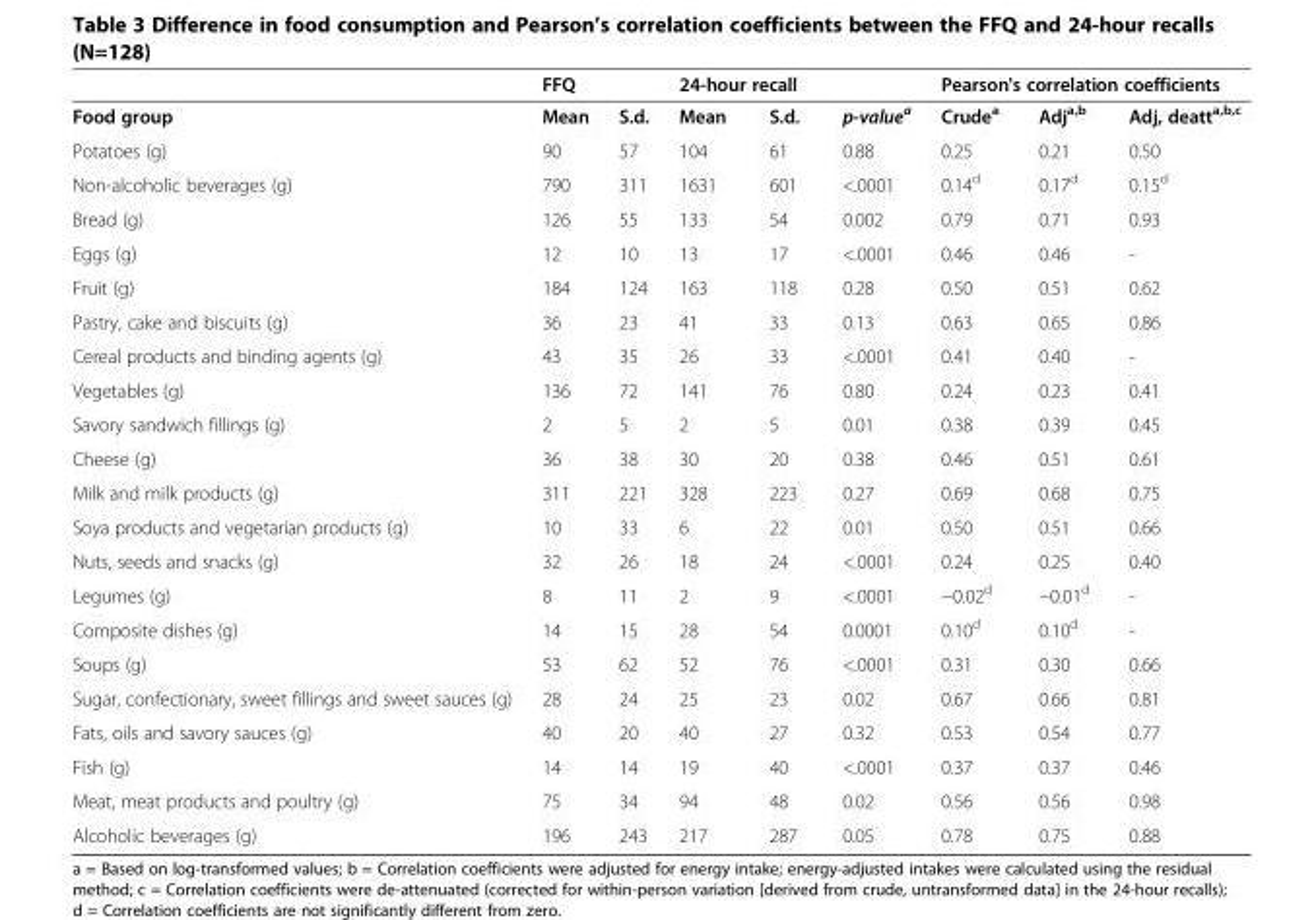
<table><thead><tr><td rowspan="2">Food group</td><td colspan="2">FFQ</td><td colspan="2">24-hour recall</td><td rowspan="2">p-value<sup>a</sup></td><td colspan="3">Pearson&#x27;s correlation coefficients</td></tr><tr><td>Mean</td><td>S.d.</td><td>Mean</td><td>S.d.</td><td>Crude<sup>a</sup></td><td>Adj<sup>a,b</sup></td><td>Adj, deatt<sup>a,b,c</sup></td></tr></thead><tbody><tr><td>Potatoes (g)</td><td>90</td><td>57</td><td>104</td><td>61</td><td>0.88</td><td>0.25</td><td>0.21</td><td>0.50</td></tr><tr><td>Non-alcoholic beverages (g)</td><td>790</td><td>311</td><td>1631</td><td>601</td><td>&lt;.0001</td><td>0.14<sup>d</sup></td><td>0.17<sup>d</sup></td><td>0.15<sup>d</sup></td></tr><tr><td>Bread (g)</td><td>126</td><td>55</td><td>133</td><td>54</td><td>0.002</td><td>0.79</td><td>0.71</td><td>0.93</td></tr><tr><td>Eggs (g)</td><td>12</td><td>10</td><td>13</td><td>17</td><td>&lt;.0001</td><td>0.46</td><td>0.46</td><td>-</td></tr><tr><td>Fruit (g)</td><td>184</td><td>124</td><td>163</td><td>118</td><td>0.28</td><td>0.50</td><td>0.51</td><td>0.62</td></tr><tr><td>Pastry, cake and biscuits (g)</td><td>36</td><td>23</td><td>41</td><td>33</td><td>0.13</td><td>0.63</td><td>0.65</td><td>0.86</td></tr><tr><td>Cereal products and binding agents (g)</td><td>43</td><td>35</td><td>26</td><td>33</td><td>&lt;.0001</td><td>0.41</td><td>0.40</td><td>-</td></tr><tr><td>Vegetables (g)</td><td>136</td><td>72</td><td>141</td><td>76</td><td>0.80</td><td>0.24</td><td>0.23</td><td>0.41</td></tr><tr><td>Savory sandwich fillings (g)</td><td>2</td><td>5</td><td>2</td><td>5</td><td>0.01</td><td>0.38</td><td>0.39</td><td>0.45</td></tr><tr><td>Cheese (g)</td><td>36</td><td>38</td><td>30</td><td>20</td><td>0.38</td><td>0.46</td><td>0.51</td><td>0.61</td></tr><tr><td>Milk and milk products (g)</td><td>311</td><td>221</td><td>328</td><td>223</td><td>0.27</td><td>0.69</td><td>0.68</td><td>0.75</td></tr><tr><td>Soya products and vegetarian products (g)</td><td>10</td><td>33</td><td>6</td><td>22</td><td>0.01</td><td>0.50</td><td>0.51</td><td>0.66</td></tr><tr><td>Nuts, seeds and snacks (g)</td><td>32</td><td>26</td><td>18</td><td>24</td><td>&lt;.0001</td><td>0.24</td><td>0.25</td><td>0.40</td></tr><tr><td>Legumes (g)</td><td>8</td><td>11</td><td>2</td><td>9</td><td>&lt;.0001</td><td>−0.02<sup>d</sup></td><td>−0.01<sup>d</sup></td><td>-</td></tr><tr><td>Composite dishes (g)</td><td>14</td><td>15</td><td>28</td><td>54</td><td>0.0001</td><td>0.10<sup>d</sup></td><td>0.10<sup>d</sup></td><td>-</td></tr><tr><td>Soups (g)</td><td>53</td><td>62</td><td>52</td><td>76</td><td>&lt;.0001</td><td>0.31</td><td>0.30</td><td>0.66</td></tr><tr><td>Sugar, confectionary, sweet fillings and sweet sauces (g)</td><td>28</td><td>24</td><td>25</td><td>23</td><td>0.02</td><td>0.67</td><td>0.66</td><td>0.81</td></tr><tr><td>Fats, oils and savory sauces (g)</td><td>40</td><td>20</td><td>40</td><td>27</td><td>0.32</td><td>0.53</td><td>0.54</td><td>0.77</td></tr><tr><td>Fish (g)</td><td>14</td><td>14</td><td>19</td><td>40</td><td>&lt;.0001</td><td>0.37</td><td>0.37</td><td>0.46</td></tr><tr><td>Meat, meat products and poultry (g)</td><td>75</td><td>34</td><td>94</td><td>48</td><td>0.02</td><td>0.56</td><td>0.56</td><td>0.98</td></tr><tr><td>Alcoholic beverages (g)</td><td>196</td><td>243</td><td>217</td><td>287</td><td>0.05</td><td>0.78</td><td>0.75</td><td>0.88</td></tr></tbody></table>